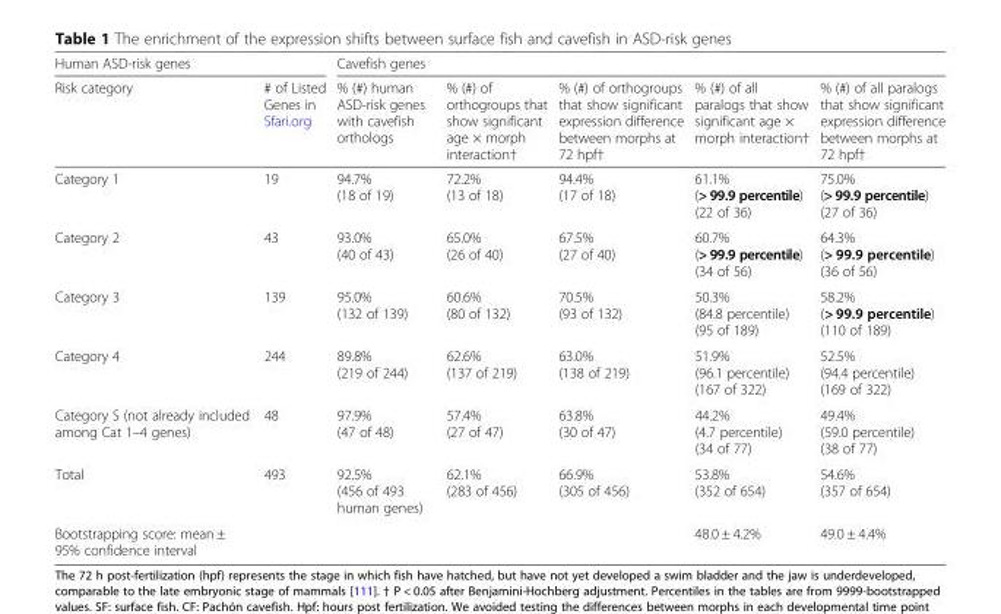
<table><thead><tr><td colspan="2">Human ASD-risk genes</td><td colspan="5">Cavefish genes</td></tr><tr><td>Risk category</td><td># of Listed Genes in Sfari.org</td><td>% (#) human ASD-risk genes with cavefish orthologs</td><td>% (#) of orthogroups that show significant age × morph interaction†</td><td>% (#) of orthogroups that show significant expression difference between morphs at 72 hpf†</td><td>% (#) of all paralogs that show significant age × morph interaction†</td><td>% (#) of all paralogs that show significant expression difference between morphs at 72 hpf†</td></tr></thead><tbody><tr><td>Category 1</td><td>19</td><td>94.7% (18 of 19)</td><td>72.2% (13 of 18)</td><td>94.4% (17 of 18)</td><td>61.1% (&gt; 99.9 percentile) (22 of 36)</td><td>75.0% (&gt; 99.9 percentile) (27 of 36)</td></tr><tr><td>Category 2</td><td>43</td><td>93.0% (40 of 43)</td><td>65.0% (26 of 40)</td><td>67.5% (27 of 40)</td><td>60.7% (&gt; 99.9 percentile) (34 of 56)</td><td>64.3% (&gt; 99.9 percentile) (36 of 56)</td></tr><tr><td>Category 3</td><td>139</td><td>95.0% (132 of 139)</td><td>60.6% (80 of 132)</td><td>70.5% (93 of 132)</td><td>50.3% (84.8 percentile) (95 of 189)</td><td>58.2% (&gt; 99.9 percentile) (110 of 189)</td></tr><tr><td>Category 4</td><td>244</td><td>89.8% (219 of 244)</td><td>62.6% (137 of 219)</td><td>63.0% (138 of 219)</td><td>51.9% (96.1 percentile) (167 of 322)</td><td>52.5% (94.4 percentile) (169 of 322)</td></tr><tr><td>Category S (not already included among Cat 1–4 genes)</td><td>48</td><td>97.9% (47 of 48)</td><td>57.4% (27 of 47)</td><td>63.8% (30 of 47)</td><td>44.2% (4.7 percentile) (34 of 77)</td><td>49.4% (59.0 percentile) (38 of 77)</td></tr><tr><td>Total</td><td>493</td><td>92.5% (456 of 493 human genes)</td><td>62.1% (283 of 456)</td><td>66.9% (305 of 456)</td><td>53.8% (352 of 654)</td><td>54.6% (357 of 654)</td></tr><tr><td>Bootstrapping score: mean ± 95% confidence interval</td><td></td><td></td><td></td><td></td><td>48.0 ± 4.2%</td><td>49.0 ± 4.4%</td></tr></tbody></table>